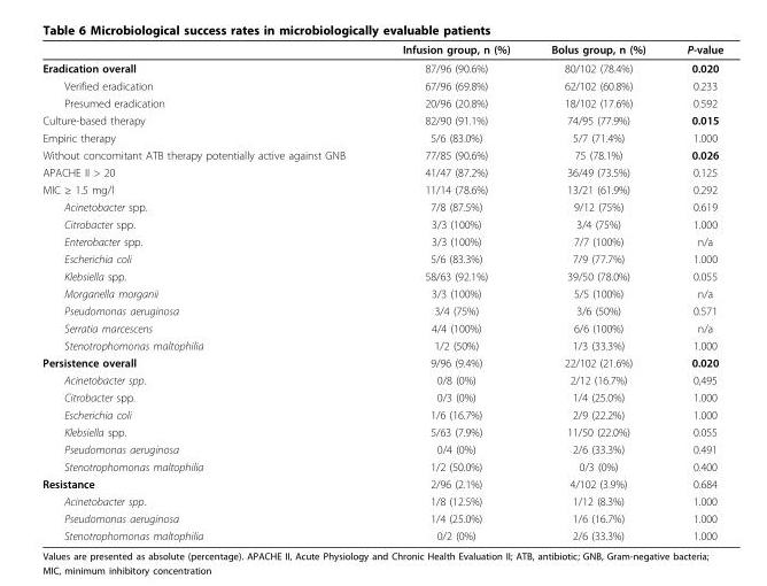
<table><thead><tr><td></td><td>Infusion group, n (%)</td><td>Bolus group, n (%)</td><td>P-value</td></tr></thead><tbody><tr><td>Eradication overall</td><td>87/96 (90.6%)</td><td>80/102 (78.4%)</td><td>0.020</td></tr><tr><td>Verified eradication</td><td>67/96 (69.8%)</td><td>62/102 (60.8%)</td><td>0.233</td></tr><tr><td>Presumed eradication</td><td>20/96 (20.8%)</td><td>18/102 (17.6%)</td><td>0.592</td></tr><tr><td>Culture-based therapy</td><td>82/90 (91.1%)</td><td>74/95 (77.9%)</td><td>0.015</td></tr><tr><td>Empiric therapy</td><td>5/6 (83.0%)</td><td>5/7 (71.4%)</td><td>1.000</td></tr><tr><td>Without concomitant ATB therapy potentially active against GNB</td><td>77/85 (90.6%)</td><td>75 (78.1%)</td><td>0.026</td></tr><tr><td>APACHE II &gt; 20</td><td>41/47 (87.2%)</td><td>36/49 (73.5%)</td><td>0.125</td></tr><tr><td>MIC ≥ 1.5 mg/l</td><td>11/14 (78.6%)</td><td>13/21 (61.9%)</td><td>0.292</td></tr><tr><td>Acinetobacter spp.</td><td>7/8 (87.5%)</td><td>9/12 (75%)</td><td>0.619</td></tr><tr><td>Citrobacter spp.</td><td>3/3 (100%)</td><td>3/4 (75%)</td><td>1.000</td></tr><tr><td>Enterobacter spp.</td><td>3/3 (100%)</td><td>7/7 (100%)</td><td>n/a</td></tr><tr><td>Escherichia coli</td><td>5/6 (83.3%)</td><td>7/9 (77.7%)</td><td>1.000</td></tr><tr><td>Klebsiella spp.</td><td>58/63 (92.1%)</td><td>39/50 (78.0%)</td><td>0.055</td></tr><tr><td>Morganella morganii</td><td>3/3 (100%)</td><td>5/5 (100%)</td><td>n/a</td></tr><tr><td>Pseudomonas aeruginosa</td><td>3/4 (75%)</td><td>3/6 (50%)</td><td>0.571</td></tr><tr><td>Serratia marcescens</td><td>4/4 (100%)</td><td>6/6 (100%)</td><td>n/a</td></tr><tr><td>Stenotrophomonas maltophilia</td><td>1/2 (50%)</td><td>1/3 (33.3%)</td><td>1.000</td></tr><tr><td>Persistence overall</td><td>9/96 (9.4%)</td><td>22/102 (21.6%)</td><td>0.020</td></tr><tr><td>Acinetobacter spp.</td><td>0/8 (0%)</td><td>2/12 (16.7%)</td><td>0,495</td></tr><tr><td>Citrobacter spp.</td><td>0/3 (0%)</td><td>1/4 (25.0%)</td><td>1.000</td></tr><tr><td>Escherichia coli</td><td>1/6 (16.7%)</td><td>2/9 (22.2%)</td><td>1.000</td></tr><tr><td>Klebsiella spp.</td><td>5/63 (7.9%)</td><td>11/50 (22.0%)</td><td>0.055</td></tr><tr><td>Pseudomonas aeruginosa</td><td>0/4 (0%)</td><td>2/6 (33.3%)</td><td>0.491</td></tr><tr><td>Stenotrophomonas maltophilia</td><td>1/2 (50.0%)</td><td>0/3 (0%)</td><td>0.400</td></tr><tr><td>Resistance</td><td>2/96 (2.1%)</td><td>4/102 (3.9%)</td><td>0.684</td></tr><tr><td>Acinetobacter spp.</td><td>1/8 (12.5%)</td><td>1/12 (8.3%)</td><td>1.000</td></tr><tr><td>Pseudomonas aeruginosa</td><td>1/4 (25.0%)</td><td>1/6 (16.7%)</td><td>1.000</td></tr><tr><td>Stenotrophomonas maltophilia</td><td>0/2 (0%)</td><td>2/6 (33.3%)</td><td>1.000</td></tr></tbody></table>